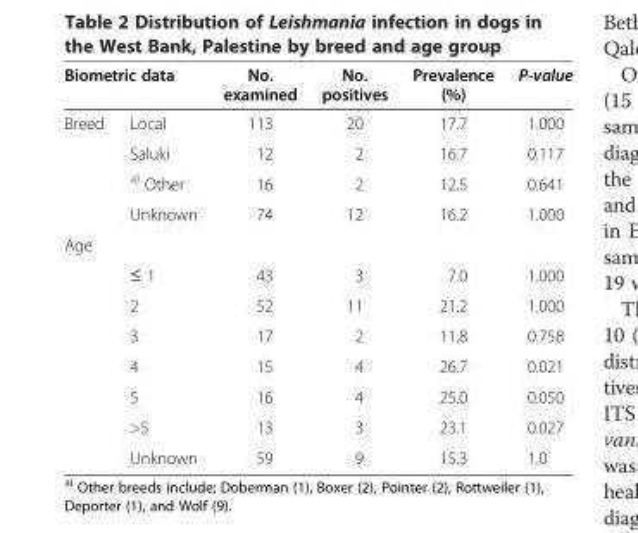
<table><thead><tr><td colspan="2">Biometric data</td><td rowspan="2">No. examined 113</td><td rowspan="2">No. positives 20</td><td rowspan="2">Prevalence (%) 17.7</td><td rowspan="2">P-value 1.000</td></tr><tr><td>Breed</td><td>Local</td></tr></thead><tbody><tr><td></td><td>Saluki</td><td>12</td><td>2</td><td>16.7</td><td>0.117</td></tr><tr><td></td><td><sup>a)</sup> Other</td><td>16</td><td>2</td><td>12.5</td><td>0.641</td></tr><tr><td></td><td>Unknown</td><td>74</td><td>12</td><td>16.2</td><td>1.000</td></tr><tr><td colspan="6">Age</td></tr><tr><td></td><td>≤ 1</td><td>43</td><td>3</td><td>7.0</td><td>1.000</td></tr><tr><td></td><td>2</td><td>52</td><td>11</td><td>21.2</td><td>1.000</td></tr><tr><td></td><td>3</td><td>17</td><td>2</td><td>11.8</td><td>0.758</td></tr><tr><td></td><td>4</td><td>15</td><td>4</td><td>26.7</td><td>0.021</td></tr><tr><td></td><td>5</td><td>16</td><td>4</td><td>25.0</td><td>0.050</td></tr><tr><td></td><td>&gt;5</td><td>13</td><td>3</td><td>23.1</td><td>0.027</td></tr><tr><td></td><td>Unknown</td><td>59</td><td>9</td><td>15.3</td><td>1.0</td></tr></tbody></table>